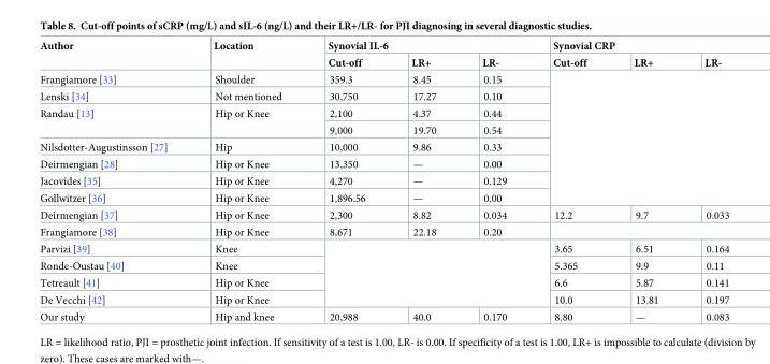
<table><thead><tr><td rowspan="2">Author</td><td rowspan="2">Location</td><td colspan="3">Synovial IL-6</td><td colspan="3">Synovial CRP</td></tr><tr><td>Cut-off</td><td>LR+</td><td>LR-</td><td>Cut-off</td><td>LR+</td><td>LR-</td></tr></thead><tbody><tr><td>Frangiamore [33]</td><td>Shoulder</td><td>359.3</td><td>8.45</td><td>0.15</td><td rowspan="8" colspan="3"></td></tr><tr><td>Lenski [34]</td><td>Not mentioned</td><td>30,750</td><td>17.27</td><td>0.10</td></tr><tr><td rowspan="2">Randau [13]</td><td rowspan="2">Hip or Knee</td><td>2,100</td><td>4.37</td><td>0.44</td></tr><tr><td>9,000</td><td>19.70</td><td>0.54</td></tr><tr><td>Nilsdotter-Augustinsson [27]</td><td>Hip</td><td>10,000</td><td>9.86</td><td>0.33</td></tr><tr><td>Deirmengian [28]</td><td>Hip or Knee</td><td>13,350</td><td>—</td><td>0.00</td></tr><tr><td>Jacovides [35]</td><td>Hip or Knee</td><td>4,270</td><td>—</td><td>0.129</td></tr><tr><td>Gollwitzer [36]</td><td>Hip or Knee</td><td>1,896.56</td><td>—</td><td>0.00</td></tr><tr><td>Deirmengian [37]</td><td>Hip or Knee</td><td>2,300</td><td>8.82</td><td>0.034</td><td>12.2</td><td>9.7</td><td>0.033</td></tr><tr><td>Frangiamore [38]</td><td>Hip or Knee</td><td>8,671</td><td>22.18</td><td>0.20</td><td colspan="3"></td></tr><tr><td>Parvizi [39]</td><td>Knee</td><td rowspan="4" colspan="3"></td><td>3.65</td><td>6.51</td><td>0.164</td></tr><tr><td>Ronde-Oustau [40]</td><td>Knee</td><td>5.365</td><td>9.9</td><td>0.11</td></tr><tr><td>Tetreault [41]</td><td>Hip or Knee</td><td>6.6</td><td>5.87</td><td>0.141</td></tr><tr><td>De Vecchi [42]</td><td>Hip or Knee</td><td>10.0</td><td>13.81</td><td>0.197</td></tr><tr><td>Our study</td><td>Hip and knee</td><td>20,988</td><td>40.0</td><td>0.170</td><td>8.80</td><td>—</td><td>0.083</td></tr></tbody></table>